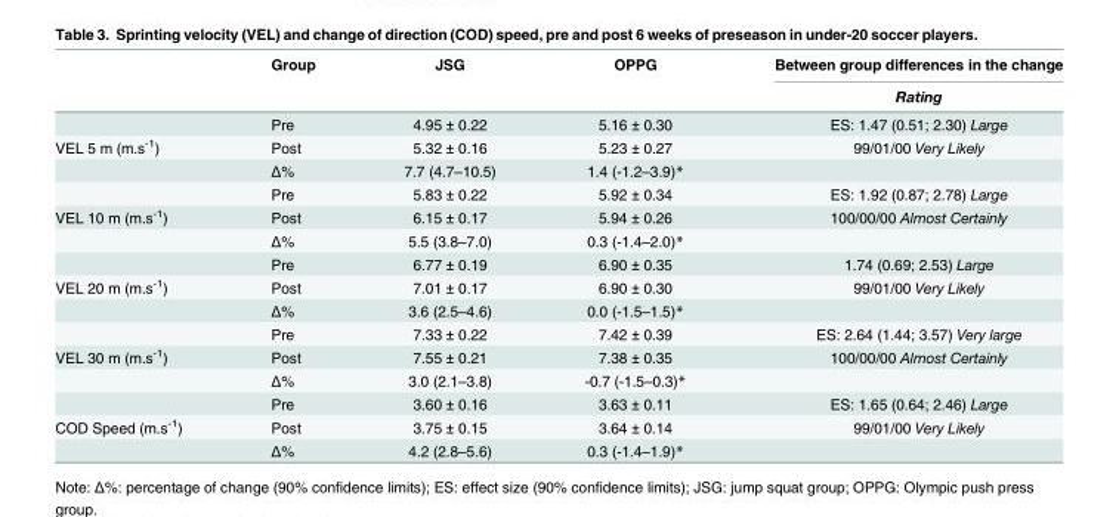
<table><thead><tr><td rowspan="2"></td><td rowspan="2">Group</td><td rowspan="2">JSG</td><td rowspan="2">OPPG</td><td rowspan="2">Between group differences in the change Rating</td></tr><tr></tr></thead><tbody><tr><td></td><td>Pre</td><td>4.95 ± 0.22</td><td>5.16 ± 0.30</td><td>ES: 1.47 (0.51; 2.30) Large</td></tr><tr><td rowspan="3">VEL 5 m (m.s<sup>-1</sup>)</td><td>Post</td><td>5.32 ± 0.16</td><td>5.23 ± 0.27</td><td>99/01/00 Very Likely</td></tr><tr><td>Δ%</td><td>7.7 (4.7–10.5)</td><td>1.4 (-1.2–3.9)*</td><td></td></tr><tr><td>Pre</td><td>5.83 ± 0.22</td><td>5.92 ± 0.34</td><td>ES: 1.92 (0.87; 2.78) Large</td></tr><tr><td rowspan="3">VEL 10 m (m.s<sup>-1</sup>)</td><td>Post</td><td>6.15 ± 0.17</td><td>5.94 ± 0.26</td><td>100/00/00 Almost Certainly</td></tr><tr><td>Δ%</td><td>5.5 (3.8–7.0)</td><td>0.3 (-1.4–2.0)*</td><td></td></tr><tr><td>Pre</td><td>6.77 ± 0.19</td><td>6.90 ± 0.35</td><td>1.74 (0.69; 2.53) Large</td></tr><tr><td rowspan="3">VEL 20 m (m.s<sup>-1</sup>)</td><td>Post</td><td>7.01 ± 0.17</td><td>6.90 ± 0.30</td><td>99/01/00 Very Likely</td></tr><tr><td>Δ%</td><td>3.6 (2.5–4.6)</td><td>0.0 (-1.5–1.5)*</td><td></td></tr><tr><td>Pre</td><td>7.33 ± 0.22</td><td>7.42 ± 0.39</td><td>ES: 2.64 (1.44; 3.57) Very large</td></tr><tr><td rowspan="3">VEL 30 m (m.s<sup>-1</sup>)</td><td>Post</td><td>7.55 ± 0.21</td><td>7.38 ± 0.35</td><td>100/00/00 Almost Certainly</td></tr><tr><td>Δ%</td><td>3.0 (2.1–3.8)</td><td>-0.7 (-1.5–0.3)*</td><td></td></tr><tr><td>Pre</td><td>3.60 ± 0.16</td><td>3.63 ± 0.11</td><td>ES: 1.65 (0.64; 2.46) Large</td></tr><tr><td rowspan="2">COD Speed (m.s<sup>-1</sup>)</td><td>Post</td><td>3.75 ± 0.15</td><td>3.64 ± 0.14</td><td>99/01/00 Very Likely</td></tr><tr><td>Δ%</td><td>4.2 (2.8–5.6)</td><td>0.3 (-1.4–1.9)*</td><td></td></tr></tbody></table>